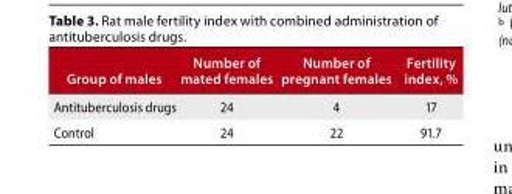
<table><thead><tr><td>Group of males</td><td>Number of mated females</td><td>Number of pregnant females</td><td>Fertility index, %</td></tr></thead><tbody><tr><td>Antituberculosis drugs</td><td>24</td><td>4</td><td>17</td></tr><tr><td>Control</td><td>24</td><td>22</td><td>91.7</td></tr></tbody></table>